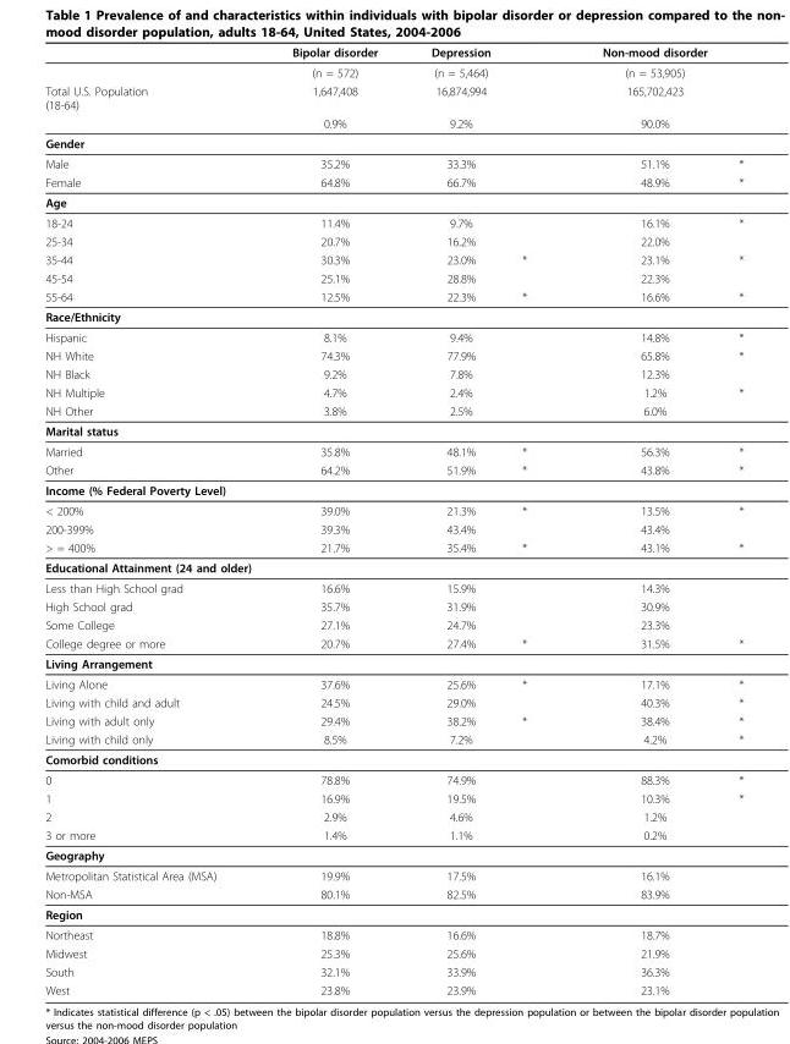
<table><thead><tr><td></td><td>Bipolar disorder</td><td>Depression</td><td></td><td>Non-mood disorder</td><td></td></tr></thead><tbody><tr><td></td><td>(n = 572)</td><td>(n = 5,464)</td><td></td><td>(n = 53,905)</td><td></td></tr><tr><td rowspan="2">Total U.S. Population (18-64)</td><td>1,647,408</td><td>16,874,994</td><td></td><td>165,702,423</td><td></td></tr><tr><td>0.9%</td><td>9.2%</td><td></td><td>90.0%</td><td></td></tr><tr><td colspan="6">Gender</td></tr><tr><td>Male</td><td>35.2%</td><td>33.3%</td><td></td><td>51.1%</td><td>*</td></tr><tr><td>Female</td><td>64.8%</td><td>66.7%</td><td></td><td>48.9%</td><td>*</td></tr><tr><td colspan="6">Age</td></tr><tr><td>18-24</td><td>11.4%</td><td>9.7%</td><td></td><td>16.1%</td><td>*</td></tr><tr><td>25-34</td><td>20.7%</td><td>16.2%</td><td></td><td>22.0%</td><td></td></tr><tr><td>35-44</td><td>30.3%</td><td>23.0%</td><td>*</td><td>23.1%</td><td>*</td></tr><tr><td>45-54</td><td>25.1%</td><td>28.8%</td><td></td><td>22.3%</td><td></td></tr><tr><td>55-64</td><td>12.5%</td><td>22.3%</td><td>*</td><td>16.6%</td><td>*</td></tr><tr><td colspan="6">Race/Ethnicity</td></tr><tr><td>Hispanic</td><td>8.1%</td><td>9.4%</td><td></td><td>14.8%</td><td>*</td></tr><tr><td>NH White</td><td>74.3%</td><td>77.9%</td><td></td><td>65.8%</td><td>*</td></tr><tr><td>NH Black</td><td>9.2%</td><td>7.8%</td><td></td><td>12.3%</td><td></td></tr><tr><td>NH Multiple</td><td>4.7%</td><td>2.4%</td><td></td><td>1.2%</td><td>*</td></tr><tr><td>NH Other</td><td>3.8%</td><td>2.5%</td><td></td><td>6.0%</td><td></td></tr><tr><td colspan="6">Marital status</td></tr><tr><td>Married</td><td>35.8%</td><td>48.1%</td><td>*</td><td>56.3%</td><td>*</td></tr><tr><td>Other</td><td>64.2%</td><td>51.9%</td><td>*</td><td>43.8%</td><td>*</td></tr><tr><td colspan="6">Income (% Federal Poverty Level)</td></tr><tr><td>&lt; 200%</td><td>39.0%</td><td>21.3%</td><td>*</td><td>13.5%</td><td>*</td></tr><tr><td>200-399%</td><td>39.3%</td><td>43.4%</td><td></td><td>43.4%</td><td></td></tr><tr><td>&gt; = 400%</td><td>21.7%</td><td>35.4%</td><td>*</td><td>43.1%</td><td>*</td></tr><tr><td colspan="6">Educational Attainment (24 and older)</td></tr><tr><td>Less than High School grad</td><td>16.6%</td><td>15.9%</td><td></td><td>14.3%</td><td></td></tr><tr><td>High School grad</td><td>35.7%</td><td>31.9%</td><td></td><td>30.9%</td><td></td></tr><tr><td>Some College</td><td>27.1%</td><td>24.7%</td><td></td><td>23.3%</td><td></td></tr><tr><td>College degree or more</td><td>20.7%</td><td>27.4%</td><td>*</td><td>31.5%</td><td>*</td></tr><tr><td colspan="6">Living Arrangement</td></tr><tr><td>Living Alone</td><td>37.6%</td><td>25.6%</td><td>*</td><td>17.1%</td><td>*</td></tr><tr><td>Living with child and adult</td><td>24.5%</td><td>29.0%</td><td></td><td>40.3%</td><td>*</td></tr><tr><td>Living with adult only</td><td>29.4%</td><td>38.2%</td><td>*</td><td>38.4%</td><td>*</td></tr><tr><td>Living with child only</td><td>8.5%</td><td>7.2%</td><td></td><td>4.2%</td><td>*</td></tr><tr><td colspan="6">Comorbid conditions</td></tr><tr><td>0</td><td>78.8%</td><td>74.9%</td><td></td><td>88.3%</td><td>*</td></tr><tr><td>1</td><td>16.9%</td><td>19.5%</td><td></td><td>10.3%</td><td>*</td></tr><tr><td>2</td><td>2.9%</td><td>4.6%</td><td></td><td>1.2%</td><td></td></tr><tr><td>3 or more</td><td>1.4%</td><td>1.1%</td><td></td><td>0.2%</td><td></td></tr><tr><td colspan="6">Geography</td></tr><tr><td>Metropolitan Statistical Area (MSA)</td><td>19.9%</td><td>17.5%</td><td></td><td>16.1%</td><td></td></tr><tr><td>Non-MSA</td><td>80.1%</td><td>82.5%</td><td></td><td>83.9%</td><td></td></tr><tr><td colspan="6">Region</td></tr><tr><td>Northeast</td><td>18.8%</td><td>16.6%</td><td></td><td>18.7%</td><td></td></tr><tr><td>Midwest</td><td>25.3%</td><td>25.6%</td><td></td><td>21.9%</td><td></td></tr><tr><td>South</td><td>32.1%</td><td>33.9%</td><td></td><td>36.3%</td><td></td></tr><tr><td>West</td><td>23.8%</td><td>23.9%</td><td></td><td>23.1%</td><td></td></tr></tbody></table>